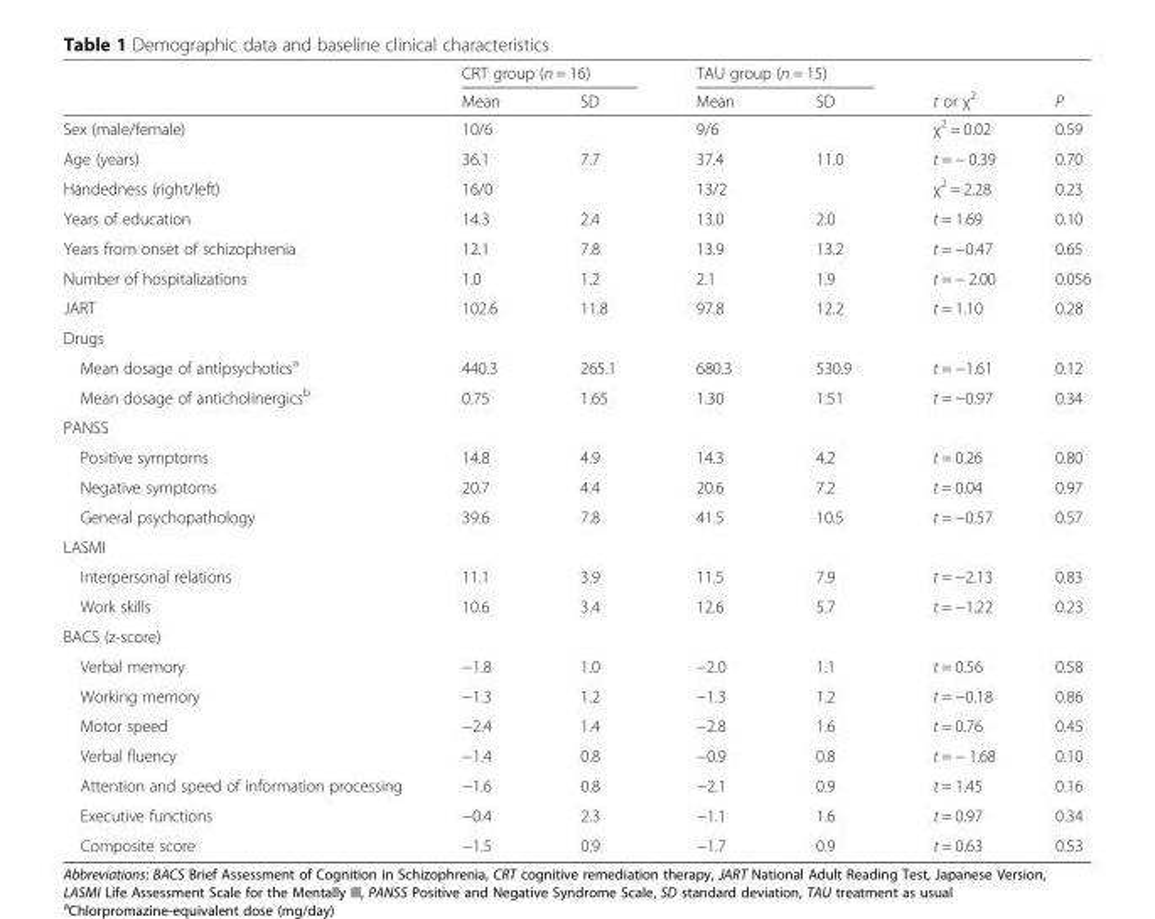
<table><thead><tr><td rowspan="2"></td><td colspan="2">CRT group (n = 16)</td><td colspan="2">TAU group (n = 15)</td><td rowspan="2">t or χ<sup>2</sup></td><td rowspan="2">P</td></tr><tr><td>Mean</td><td>SD</td><td>Mean</td><td>SD</td></tr></thead><tbody><tr><td>Sex (male/female)</td><td>10/6</td><td></td><td>9/6</td><td></td><td>χ<sup>2</sup> = 0.02</td><td>0.59</td></tr><tr><td>Age (years)</td><td>36.1</td><td>7.7</td><td>37.4</td><td>11.0</td><td>t = − 0.39</td><td>0.70</td></tr><tr><td>Handedness (right/left)</td><td>16/0</td><td></td><td>13/2</td><td></td><td>χ<sup>2</sup> = 2.28</td><td>0.23</td></tr><tr><td>Years of education</td><td>14.3</td><td>2.4</td><td>13.0</td><td>2.0</td><td>t = 1.69</td><td>0.10</td></tr><tr><td>Years from onset of schizophrenia</td><td>12.1</td><td>7.8</td><td>13.9</td><td>13.2</td><td>t = −0.47</td><td>0.65</td></tr><tr><td>Number of hospitalizations</td><td>1.0</td><td>1.2</td><td>2.1</td><td>1.9</td><td>t = − 2.00</td><td>0.056</td></tr><tr><td>JART</td><td>102.6</td><td>11.8</td><td>97.8</td><td>12.2</td><td>t = 1.10</td><td>0.28</td></tr><tr><td colspan="7">Drugs</td></tr><tr><td>Mean dosage of antipsychotics<sup>a</sup></td><td>440.3</td><td>265.1</td><td>680.3</td><td>530.9</td><td>t = −1.61</td><td>0.12</td></tr><tr><td>Mean dosage of anticholinergics<sup>b</sup></td><td>0.75</td><td>1.65</td><td>1.30</td><td>1.51</td><td>t = −0.97</td><td>0.34</td></tr><tr><td colspan="7">PANSS</td></tr><tr><td>Positive symptoms</td><td>14.8</td><td>4.9</td><td>14.3</td><td>4.2</td><td>t = 0.26</td><td>0.80</td></tr><tr><td>Negative symptoms</td><td>20.7</td><td>4.4</td><td>20.6</td><td>7.2</td><td>t = 0.04</td><td>0.97</td></tr><tr><td>General psychopathology</td><td>39.6</td><td>7.8</td><td>41.5</td><td>10.5</td><td>t = −0.57</td><td>0.57</td></tr><tr><td colspan="7">LASMI</td></tr><tr><td>Interpersonal relations</td><td>11.1</td><td>3.9</td><td>11.5</td><td>7.9</td><td>t = −2.13</td><td>0.83</td></tr><tr><td>Work skills</td><td>10.6</td><td>3.4</td><td>12.6</td><td>5.7</td><td>t = −1.22</td><td>0.23</td></tr><tr><td colspan="7">BACS (z-score)</td></tr><tr><td>Verbal memory</td><td>−1.8</td><td>1.0</td><td>−2.0</td><td>1.1</td><td>t = 0.56</td><td>0.58</td></tr><tr><td>Working memory</td><td>−1.3</td><td>1.2</td><td>−1.3</td><td>1.2</td><td>t = −0.18</td><td>0.86</td></tr><tr><td>Motor speed</td><td>−2.4</td><td>1.4</td><td>−2.8</td><td>1.6</td><td>t = 0.76</td><td>0.45</td></tr><tr><td>Verbal fluency</td><td>−1.4</td><td>0.8</td><td>−0.9</td><td>0.8</td><td>t = − 1.68</td><td>0.10</td></tr><tr><td>Attention and speed of information processing</td><td>−1.6</td><td>0.8</td><td>−2.1</td><td>0.9</td><td>t = 1.45</td><td>0.16</td></tr><tr><td>Executive functions</td><td>−0.4</td><td>2.3</td><td>−1.1</td><td>1.6</td><td>t = 0.97</td><td>0.34</td></tr><tr><td>Composite score</td><td>−1.5</td><td>0.9</td><td>−1.7</td><td>0.9</td><td>t = 0.63</td><td>0.53</td></tr></tbody></table>